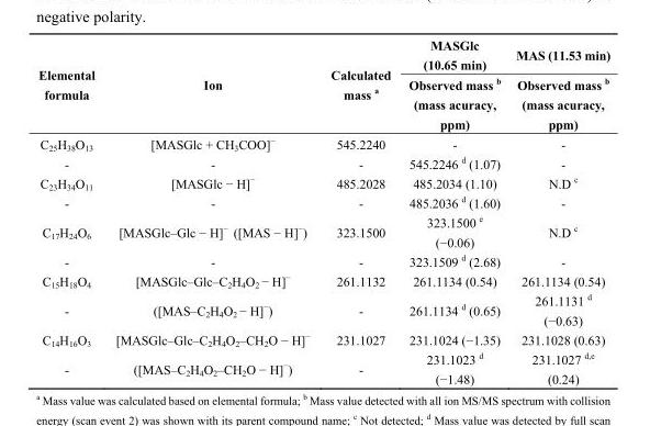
<table><thead><tr><td rowspan="2">Elemental formula</td><td rowspan="2">Ion</td><td rowspan="2">Calculated mass <sup>a</sup></td><td rowspan="2">MASGlc (10.65 min) Observed mass <sup>b</sup> (mass acuracy, ppm)</td><td rowspan="2">MAS (11.53 min) Observed mass <sup>b</sup> (mass acuracy, ppm)</td></tr><tr></tr></thead><tbody><tr><td>C<sub>25</sub>H<sub>38</sub>O<sub>13</sub></td><td>[MASGlc + CH<sub>3</sub>COO]<sup>−</sup></td><td>545.2240</td><td>-</td><td>-</td></tr><tr><td>-</td><td>-</td><td>-</td><td>545.2246 <sup>d</sup> (1.07)</td><td>-</td></tr><tr><td>C<sub>23</sub>H<sub>34</sub>O<sub>11</sub></td><td>[MASGlc − H]<sup>−</sup></td><td>485.2028</td><td>485.2034 (1.10)</td><td>N.D <sup>c</sup></td></tr><tr><td>-</td><td>-</td><td>-</td><td>485.2036 <sup>d</sup> (1.60)</td><td>-</td></tr><tr><td>C<sub>17</sub>H<sub>24</sub>O<sub>6</sub></td><td>[MASGlc–Glc − H]<sup>−</sup> ([MAS − H]<sup>−</sup>)</td><td>323.1500</td><td>323.1500 <sup>e</sup> (−0.06)</td><td>N.D <sup>c</sup></td></tr><tr><td>-</td><td>-</td><td>-</td><td>323.1509 <sup>d</sup> (2.68)</td><td>-</td></tr><tr><td>C<sub>15</sub>H<sub>18</sub>O<sub>4</sub></td><td>[MASGlc–Glc–C<sub>2</sub>H<sub>4</sub>O<sub>2</sub> − H]<sup>−</sup></td><td>261.1132</td><td>261.1134 (0.54)</td><td>261.1134 (0.54)</td></tr><tr><td>-</td><td>([MAS–C<sub>2</sub>H<sub>4</sub>O<sub>2</sub> − H]<sup>−</sup>)</td><td>-</td><td>261.1134 <sup>d</sup> (0.65)</td><td>261.1131 <sup>d</sup> (−0.63)</td></tr><tr><td>C<sub>14</sub>H<sub>16</sub>O<sub>3</sub></td><td>[MASGlc–Glc–C<sub>2</sub>H<sub>4</sub>O<sub>2</sub>–CH<sub>2</sub>O − H]<sup>−</sup></td><td>231.1027</td><td>231.1024 (−1.35)</td><td>231.1028 (0.63)</td></tr><tr><td>-</td><td>([MAS–C<sub>2</sub>H<sub>4</sub>O<sub>2</sub>–CH<sub>2</sub>O − H]<sup>−</sup>)</td><td>-</td><td>231.1023 <sup>d</sup> (−1.48)</td><td>231.1027 <sup>d,e</sup> (0.24)</td></tr></tbody></table>